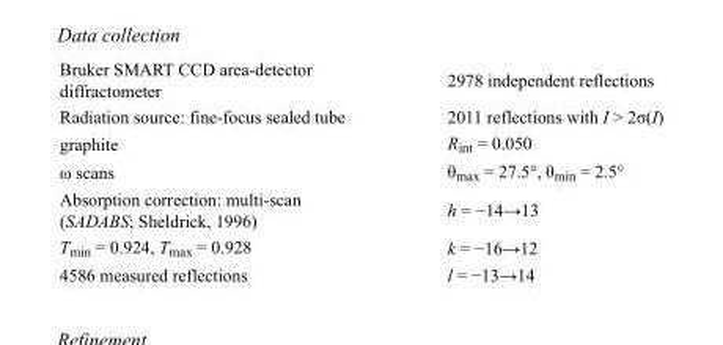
<table><tbody><tr><td>Bruker SMART CCD area-detector diffractometer</td><td>2978 independent reflections</td></tr><tr><td>Radiation source: fine-focus sealed tube</td><td>2011 reflections with I &gt; 2σ(I)</td></tr><tr><td>graphite</td><td>R<sub>int</sub> = 0.050</td></tr><tr><td>ω scans</td><td>θ<sub>max</sub> = 27.5°, θ<sub>min</sub> = 2.5°</td></tr><tr><td>Absorption correction: multi-scan (SADABS; Sheldrick, 1996)</td><td>h = −14→13</td></tr><tr><td>T<sub>min</sub> = 0.924, T<sub>max</sub> = 0.928</td><td>k = −16→12</td></tr><tr><td>4586 measured reflections</td><td>l = −13→14</td></tr></tbody></table>